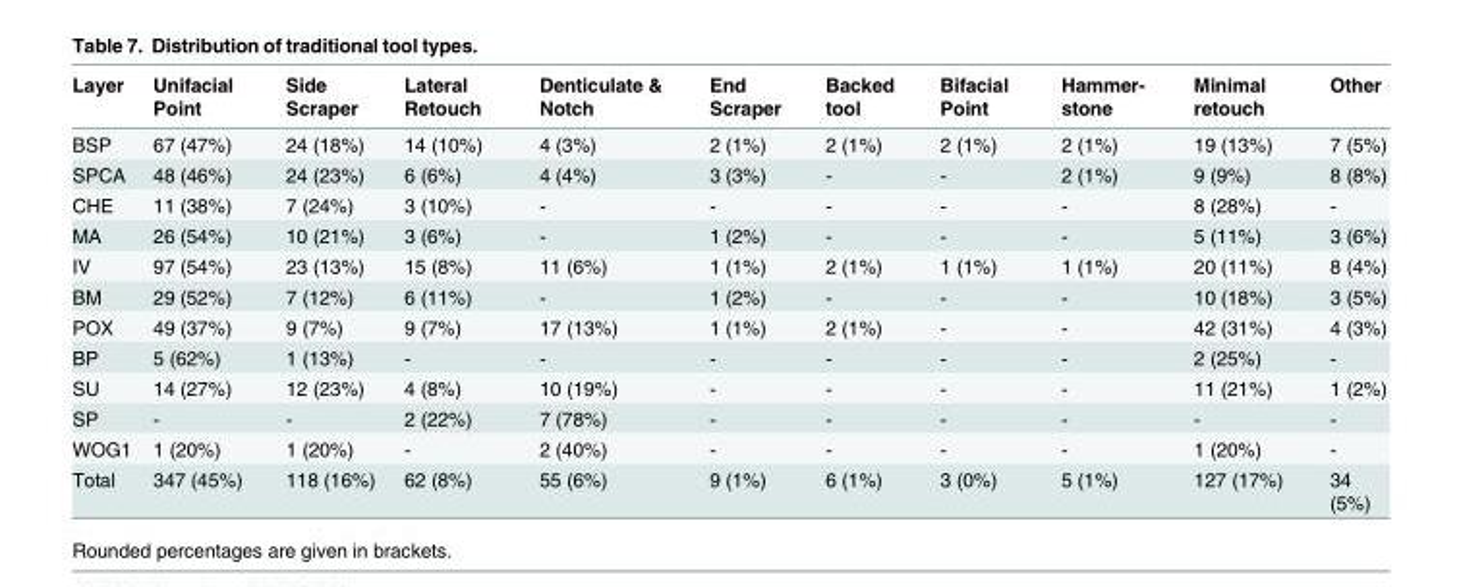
<table><thead><tr><td>Layer</td><td>Unifacial Point</td><td>Side Scraper</td><td>Lateral Retouch</td><td>Denticulate &amp; Notch</td><td>End Scraper</td><td>Backed tool</td><td>Bifacial Point</td><td>Hammer- stone</td><td>Minimal retouch</td><td>Other</td></tr></thead><tbody><tr><td>BSP</td><td>67 (47%)</td><td>24 (18%)</td><td>14 (10%)</td><td>4 (3%)</td><td>2 (1%)</td><td>2 (1%)</td><td>2 (1%)</td><td>2 (1%)</td><td>19 (13%)</td><td>7 (5%)</td></tr><tr><td>SPCA</td><td>48 (46%)</td><td>24 (23%)</td><td>6 (6%)</td><td>4 (4%)</td><td>3 (3%)</td><td>-</td><td>-</td><td>2 (1%)</td><td>9 (9%)</td><td>8 (8%)</td></tr><tr><td>CHE</td><td>11 (38%)</td><td>7 (24%)</td><td>3 (10%)</td><td>-</td><td>-</td><td>-</td><td>-</td><td>-</td><td>8 (28%)</td><td>-</td></tr><tr><td>MA</td><td>26 (54%)</td><td>10 (21%)</td><td>3 (6%)</td><td>-</td><td>1 (2%)</td><td>-</td><td>-</td><td>-</td><td>5 (11%)</td><td>3 (6%)</td></tr><tr><td>IV</td><td>97 (54%)</td><td>23 (13%)</td><td>15 (8%)</td><td>11 (6%)</td><td>1 (1%)</td><td>2 (1%)</td><td>1 (1%)</td><td>1 (1%)</td><td>20 (11%)</td><td>8 (4%)</td></tr><tr><td>BM</td><td>29 (52%)</td><td>7 (12%)</td><td>6 (11%)</td><td>-</td><td>1 (2%)</td><td>-</td><td>-</td><td>-</td><td>10 (18%)</td><td>3 (5%)</td></tr><tr><td>POX</td><td>49 (37%)</td><td>9 (7%)</td><td>9 (7%)</td><td>17 (13%)</td><td>1 (1%)</td><td>2 (1%)</td><td>-</td><td>-</td><td>42 (31%)</td><td>4 (3%)</td></tr><tr><td>BP</td><td>5 (62%)</td><td>1 (13%)</td><td>-</td><td>-</td><td>-</td><td>-</td><td>-</td><td>-</td><td>2 (25%)</td><td>-</td></tr><tr><td>SU</td><td>14 (27%)</td><td>12 (23%)</td><td>4 (8%)</td><td>10 (19%)</td><td>-</td><td>-</td><td>-</td><td>-</td><td>11 (21%)</td><td>1 (2%)</td></tr><tr><td>SP</td><td>-</td><td>-</td><td>2 (22%)</td><td>7 (78%)</td><td>-</td><td>-</td><td>-</td><td>-</td><td>-</td><td>-</td></tr><tr><td>WOG1</td><td>1 (20%)</td><td>1 (20%)</td><td>-</td><td>2 (40%)</td><td>-</td><td>-</td><td>-</td><td>-</td><td>1 (20%)</td><td>-</td></tr><tr><td>Total</td><td>347 (45%)</td><td>118 (16%)</td><td>62 (8%)</td><td>55 (6%)</td><td>9 (1%)</td><td>6 (1%)</td><td>3 (0%)</td><td>5 (1%)</td><td>127 (17%)</td><td>34 (5%)</td></tr></tbody></table>